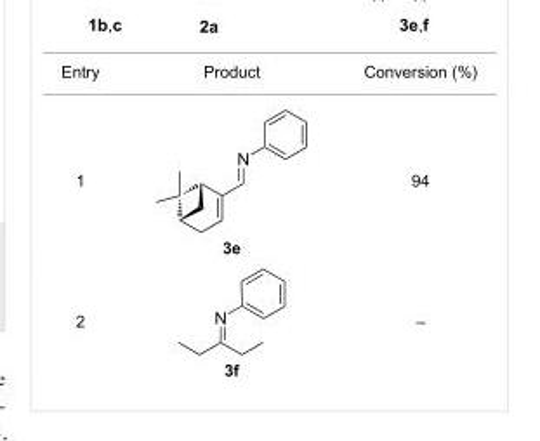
<table><tbody><tr><td>Entry</td><td>Product</td><td>Conversion (%)</td></tr><tr><td>1</td><td>3e</td><td>94</td></tr><tr><td>2</td><td>3f</td><td>–</td></tr></tbody></table>